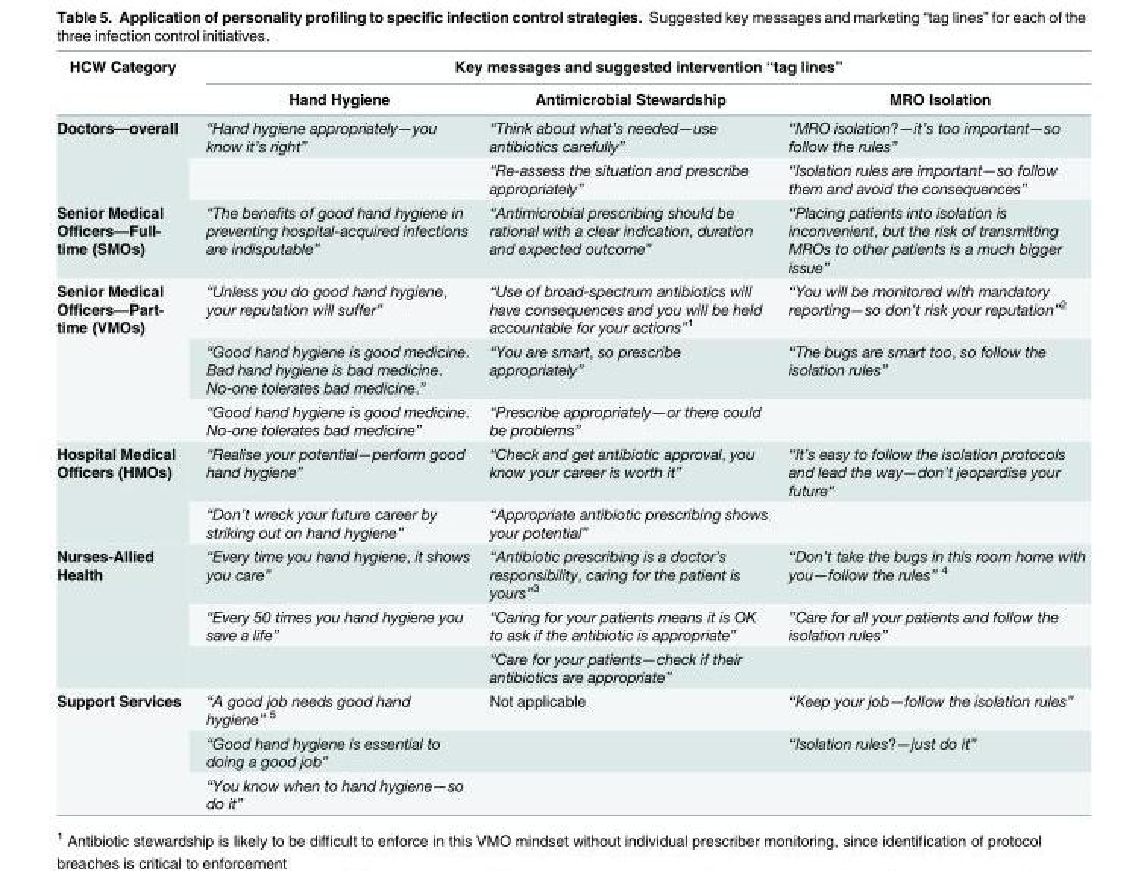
<table><thead><tr><td rowspan="2">HCW Category</td><td colspan="3">Key messages and suggested intervention “tag lines”</td></tr><tr><td>Hand Hygiene</td><td>Antimicrobial Stewardship</td><td>MRO Isolation</td></tr></thead><tbody><tr><td rowspan="2">Doctors—overall</td><td>“Hand hygiene appropriately—you know it’s right”</td><td>“Think about what’s needed—use antibiotics carefully”</td><td>“MRO isolation?—it’s too important—so follow the rules”</td></tr><tr><td></td><td>“Re-assess the situation and prescribe appropriately”</td><td>“Isolation rules are important—so follow them and avoid the consequences”</td></tr><tr><td>Senior Medical Officers—Full- time (SMOs)</td><td>“The benefits of good hand hygiene in preventing hospital-acquired infections are indisputable”</td><td>“Antimicrobial prescribing should be rational with a clear indication, duration and expected outcome”</td><td>“Placing patients into isolation is inconvenient, but the risk of transmitting MROs to other patients is a much bigger issue”</td></tr><tr><td rowspan="3">Senior Medical Officers—Part- time (VMOs)</td><td>“Unless you do good hand hygiene, your reputation will suffer”</td><td>“Use of broad-spectrum antibiotics will have consequences and you will be held accountable for your actions”<sup>1</sup></td><td>“You will be monitored with mandatory reporting—so don’t risk your reputation”<sup>2</sup></td></tr><tr><td>“Good hand hygiene is good medicine. Bad hand hygiene is bad medicine. No-one tolerates bad medicine.”</td><td>“You are smart, so prescribe appropriately”</td><td>“The bugs are smart too, so follow the isolation rules”</td></tr><tr><td>“Good hand hygiene is good medicine. No-one tolerates bad medicine”</td><td>“Prescribe appropriately—or there could be problems”</td><td></td></tr><tr><td rowspan="2">Hospital Medical Officers (HMOs)</td><td>“Realise your potential—perform good hand hygiene”</td><td>“Check and get antibiotic approval, you know your career is worth it”</td><td>“It’s easy to follow the isolation protocols and lead the way—don’t jeopardise your future“</td></tr><tr><td>“Don’t wreck your future career by striking out on hand hygiene”</td><td>“Appropriate antibiotic prescribing shows your potential”</td><td></td></tr><tr><td rowspan="3">Nurses-Allied Health</td><td>“Every time you hand hygiene, it shows you care”</td><td>“Antibiotic prescribing is a doctor’s responsibility, caring for the patient is yours”<sup>3</sup></td><td>“Don’t take the bugs in this room home with you—follow the rules” <sup>4</sup></td></tr><tr><td>“Every 50 times you hand hygiene you save a life”</td><td>“Caring for your patients means it is OK to ask if the antibiotic is appropriate”</td><td>”Care for all your patients and follow the isolation rules”</td></tr><tr><td></td><td>“Care for your patients—check if their antibiotics are appropriate”</td><td></td></tr><tr><td rowspan="3">Support Services</td><td>“A good job needs good hand hygiene” <sup>5</sup></td><td>Not applicable</td><td>“Keep your job—follow the isolation rules”</td></tr><tr><td>“Good hand hygiene is essential to doing a good job”</td><td></td><td>“Isolation rules?—just do it”</td></tr><tr><td>“You know when to hand hygiene—so do it”</td><td></td><td></td></tr></tbody></table>